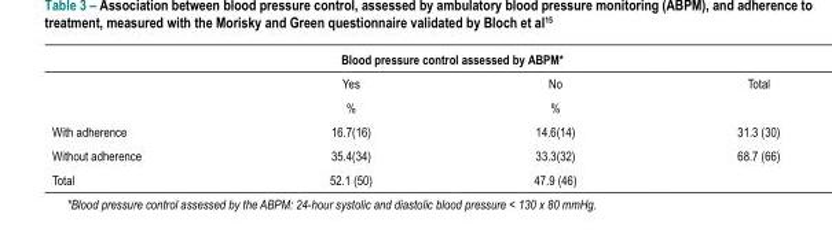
<table><thead><tr><td rowspan="2"></td><td colspan="2">Blood pressure control assessed by ABPM*</td><td rowspan="2">Total</td></tr><tr><td>Yes</td><td>No</td></tr></thead><tbody><tr><td></td><td>%</td><td>%</td><td></td></tr><tr><td>With adherence</td><td>16.7(16)</td><td>14.6(14)</td><td>31.3 (30)</td></tr><tr><td>Without adherence</td><td>35.4(34)</td><td>33.3(32)</td><td>68.7 (66)</td></tr><tr><td>Total</td><td>52.1 (50)</td><td>47.9 (46)</td><td></td></tr></tbody></table>